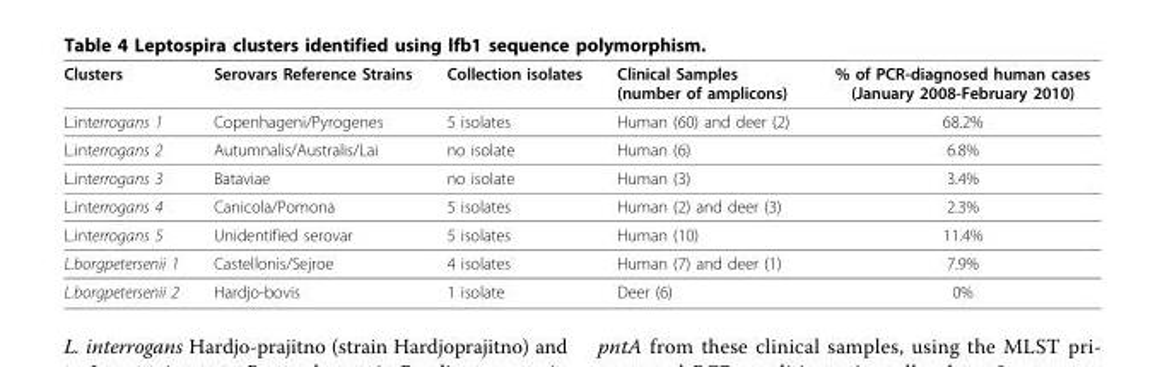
<table><thead><tr><td>Clusters</td><td>Serovars Reference Strains</td><td>Collection isolates</td><td>Clinical Samples (number of amplicons)</td><td>% of PCR-diagnosed human cases (January 2008-February 2010)</td></tr></thead><tbody><tr><td>L.interrogans 1</td><td>Copenhageni/Pyrogenes</td><td>5 isolates</td><td>Human (60) and deer (2)</td><td>68.2%</td></tr><tr><td>L.interrogans 2</td><td>Autumnalis/Australis/Lai</td><td>no isolate</td><td>Human (6)</td><td>6.8%</td></tr><tr><td>L.interrogans 3</td><td>Bataviae</td><td>no isolate</td><td>Human (3)</td><td>3.4%</td></tr><tr><td>L.interrogans 4</td><td>Canicola/Pomona</td><td>5 isolates</td><td>Human (2) and deer (3)</td><td>2.3%</td></tr><tr><td>L.interrogans 5</td><td>Unidentified serovar</td><td>5 isolates</td><td>Human (10)</td><td>11.4%</td></tr><tr><td>L.borgpetersenii 1</td><td>Castellonis/Sejroe</td><td>4 isolates</td><td>Human (7) and deer (1)</td><td>7.9%</td></tr><tr><td>L.borgpetersenii 2</td><td>Hardjo-bovis</td><td>1 isolate</td><td>Deer (6)</td><td>0%</td></tr></tbody></table>